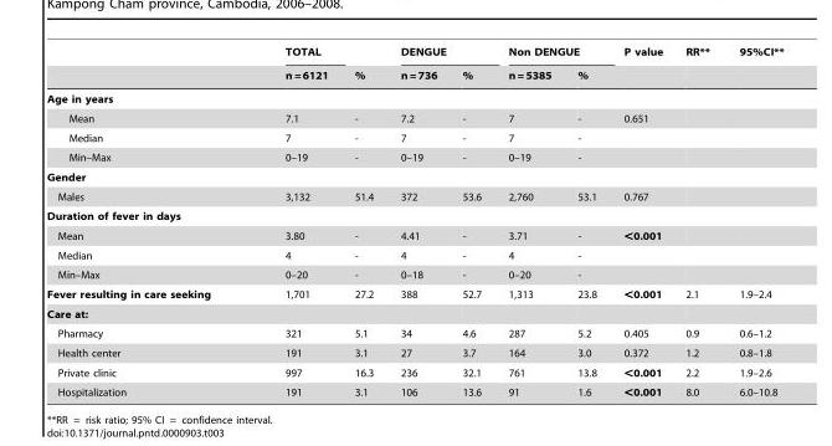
<table><thead><tr><td rowspan="2"></td><td rowspan="2">TOTAL n = 6121</td><td rowspan="2">%</td><td colspan="2">DENGUE</td><td colspan="2">Non DENGUE</td><td rowspan="2">P value</td><td rowspan="2">RR**</td><td rowspan="2">95%CI**</td></tr><tr><td>n = 736</td><td>%</td><td>n = 5385</td><td>%</td></tr></thead><tbody><tr><td colspan="10">Age in years</td></tr><tr><td>Mean</td><td>7.1</td><td>-</td><td>7.2</td><td>-</td><td>7</td><td>-</td><td>0.651</td><td></td><td></td></tr><tr><td>Median</td><td>7</td><td>-</td><td>7</td><td>-</td><td>7</td><td>-</td><td></td><td></td><td></td></tr><tr><td>Min–Max</td><td>0–19</td><td>-</td><td>0–19</td><td>-</td><td>0–19</td><td>-</td><td></td><td></td><td></td></tr><tr><td colspan="10">Gender</td></tr><tr><td>Males</td><td>3,132</td><td>51.4</td><td>372</td><td>53.6</td><td>2,760</td><td>53.1</td><td>0.767</td><td></td><td></td></tr><tr><td colspan="10">Duration of fever in days</td></tr><tr><td>Mean</td><td>3.80</td><td>-</td><td>4.41</td><td>-</td><td>3.71</td><td>-</td><td>&lt;0.001</td><td></td><td></td></tr><tr><td>Median</td><td>4</td><td>-</td><td>4</td><td>-</td><td>4</td><td>-</td><td></td><td></td><td></td></tr><tr><td>Min–Max</td><td>0–20</td><td>-</td><td>0–18</td><td>-</td><td>0–20</td><td>-</td><td></td><td></td><td></td></tr><tr><td>Fever resulting in care seeking</td><td>1,701</td><td>27.2</td><td>388</td><td>52.7</td><td>1,313</td><td>23.8</td><td>&lt;0.001</td><td>2.1</td><td>1.9–2.4</td></tr><tr><td colspan="10">Care at:</td></tr><tr><td>Pharmacy</td><td>321</td><td>5.1</td><td>34</td><td>4.6</td><td>287</td><td>5.2</td><td>0.405</td><td>0.9</td><td>0.6–1.2</td></tr><tr><td>Health center</td><td>191</td><td>3.1</td><td>27</td><td>3.7</td><td>164</td><td>3.0</td><td>0.372</td><td>1.2</td><td>0.8–1.8</td></tr><tr><td>Private clinic</td><td>997</td><td>16.3</td><td>236</td><td>32.1</td><td>761</td><td>13.8</td><td>&lt;0.001</td><td>2.2</td><td>1.9–2.6</td></tr><tr><td>Hospitalization</td><td>191</td><td>3.1</td><td>106</td><td>13.6</td><td>91</td><td>1.6</td><td>&lt;0.001</td><td>8.0</td><td>6.0–10.8</td></tr></tbody></table>